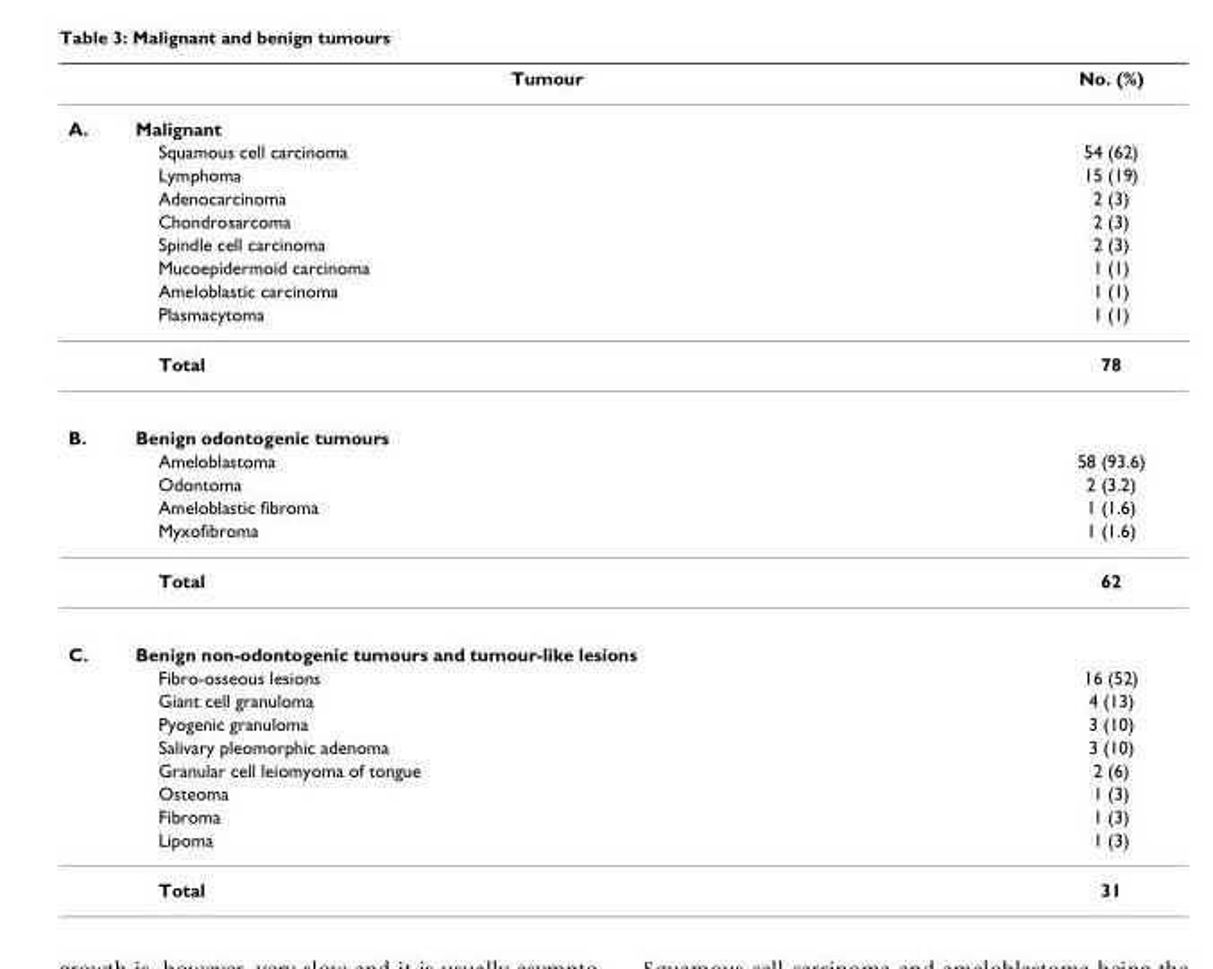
<table><thead><tr><td colspan="2">Tumour</td><td rowspan="2">No. (%)</td></tr><tr><td>A.</td><td>Malignant</td></tr></thead><tbody><tr><td></td><td>Squamous cell carcinoma</td><td>54 (62)</td></tr><tr><td></td><td>Lymphoma</td><td>15 (19)</td></tr><tr><td></td><td>Adenocarcinoma</td><td>2 (3)</td></tr><tr><td></td><td>Chondrosarcoma</td><td>2 (3)</td></tr><tr><td></td><td>Spindle cell carcinoma</td><td>2 (3)</td></tr><tr><td></td><td>Mucoepidermoid carcinoma</td><td>1 (1)</td></tr><tr><td></td><td>Ameloblastic carcinoma</td><td>1 (1)</td></tr><tr><td></td><td>Plasmacytoma</td><td>1 (1)</td></tr><tr><td></td><td>Total</td><td>78</td></tr><tr><td rowspan="6">B.</td><td>Benign odontogenic tumours</td><td></td></tr><tr><td>Ameloblastoma</td><td>58 (93.6)</td></tr><tr><td>Odontoma</td><td>2 (3.2)</td></tr><tr><td>Ameloblastic fibroma</td><td>1 (1.6)</td></tr><tr><td>Myxofibroma</td><td>1 (1.6)</td></tr><tr><td>Total</td><td>62</td></tr><tr><td rowspan="10">C.</td><td>Benign non-odontogenic tumours and tumour-like lesions</td><td></td></tr><tr><td>Fibro-osseous lesions</td><td>16 (52)</td></tr><tr><td>Giant cell granuloma</td><td>4 (13)</td></tr><tr><td>Pyogenic granuloma</td><td>3 (10)</td></tr><tr><td>Salivary pleomorphic adenoma</td><td>3 (10)</td></tr><tr><td>Granular cell leiomyoma of tongue</td><td>2 (6)</td></tr><tr><td>Osteoma</td><td>1 (3)</td></tr><tr><td>Fibroma</td><td>1 (3)</td></tr><tr><td>Lipoma</td><td>1 (3)</td></tr><tr><td>Total</td><td>31</td></tr></tbody></table>